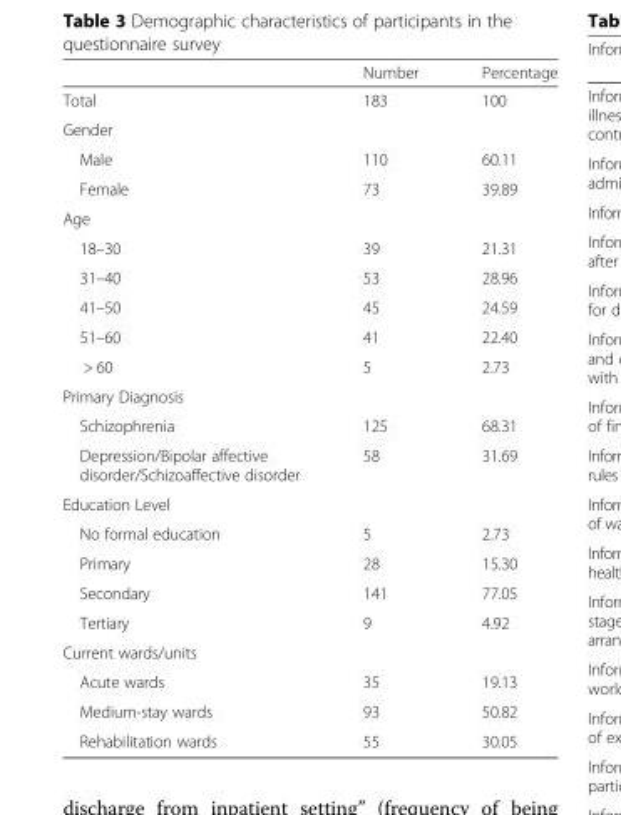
<table><thead><tr><td></td><td>Number</td><td>Percentage</td></tr></thead><tbody><tr><td>Total</td><td>183</td><td>100</td></tr><tr><td colspan="3">Gender</td></tr><tr><td>Male</td><td>110</td><td>60.11</td></tr><tr><td>Female</td><td>73</td><td>39.89</td></tr><tr><td colspan="3">Age</td></tr><tr><td>18–30</td><td>39</td><td>21.31</td></tr><tr><td>31–40</td><td>53</td><td>28.96</td></tr><tr><td>41–50</td><td>45</td><td>24.59</td></tr><tr><td>51–60</td><td>41</td><td>22.40</td></tr><tr><td>&gt; 60</td><td>5</td><td>2.73</td></tr><tr><td colspan="3">Primary Diagnosis</td></tr><tr><td>Schizophrenia</td><td>125</td><td>68.31</td></tr><tr><td>Depression/Bipolar affective disorder/Schizoaffective disorder</td><td>58</td><td>31.69</td></tr><tr><td colspan="3">Education Level</td></tr><tr><td>No formal education</td><td>5</td><td>2.73</td></tr><tr><td>Primary</td><td>28</td><td>15.30</td></tr><tr><td>Secondary</td><td>141</td><td>77.05</td></tr><tr><td>Tertiary</td><td>9</td><td>4.92</td></tr><tr><td colspan="3">Current wards/units</td></tr><tr><td>Acute wards</td><td>35</td><td>19.13</td></tr><tr><td>Medium-stay wards</td><td>93</td><td>50.82</td></tr><tr><td>Rehabilitation wards</td><td>55</td><td>30.05</td></tr></tbody></table>